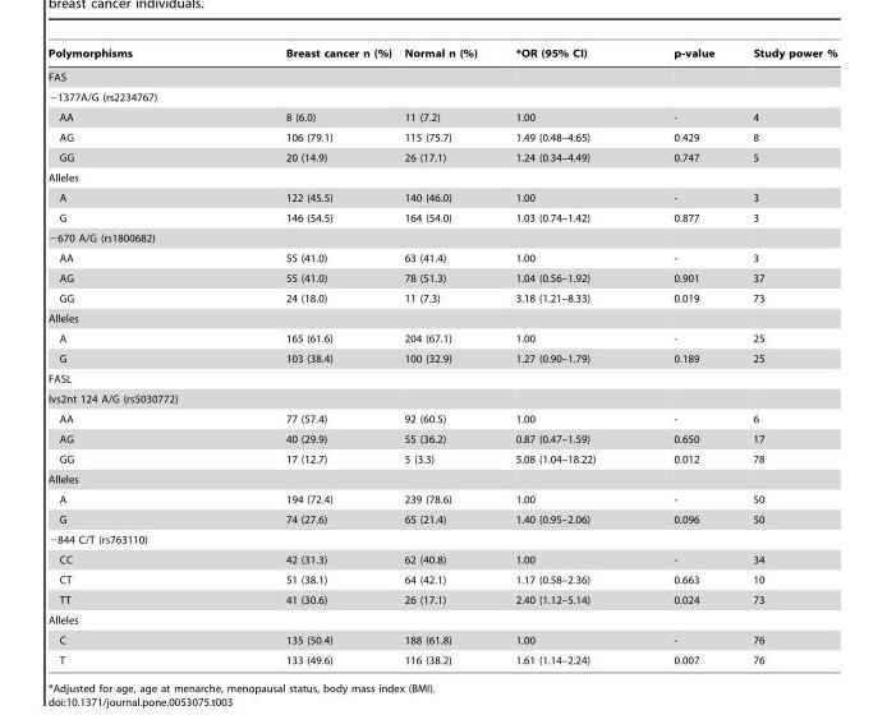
<table><thead><tr><td>Polymorphisms</td><td>Breast cancer n (%)</td><td>Normal n (%)</td><td>*OR (95% CI)</td><td>p-value</td><td>Study power %</td></tr></thead><tbody><tr><td colspan="6">FAS</td></tr><tr><td colspan="6">−1377A/G (rs2234767)</td></tr><tr><td>AA</td><td>8 (6.0)</td><td>11 (7.2)</td><td>1.00</td><td>-</td><td>4</td></tr><tr><td>AG</td><td>106 (79.1)</td><td>115 (75.7)</td><td>1.49 (0.48–4.65)</td><td>0.429</td><td>8</td></tr><tr><td>GG</td><td>20 (14.9)</td><td>26 (17.1)</td><td>1.24 (0.34–4.49)</td><td>0.747</td><td>5</td></tr><tr><td colspan="6">Alleles</td></tr><tr><td>A</td><td>122 (45.5)</td><td>140 (46.0)</td><td>1.00</td><td>-</td><td>3</td></tr><tr><td>G</td><td>146 (54.5)</td><td>164 (54.0)</td><td>1.03 (0.74–1.42)</td><td>0.877</td><td>3</td></tr><tr><td colspan="6">−670 A/G (rs1800682)</td></tr><tr><td>AA</td><td>55 (41.0)</td><td>63 (41.4)</td><td>1.00</td><td>-</td><td>3</td></tr><tr><td>AG</td><td>55 (41.0)</td><td>78 (51.3)</td><td>1.04 (0.56–1.92)</td><td>0.901</td><td>37</td></tr><tr><td>GG</td><td>24 (18.0)</td><td>11 (7.3)</td><td>3.18 (1.21–8.33)</td><td>0.019</td><td>73</td></tr><tr><td colspan="6">Alleles</td></tr><tr><td>A</td><td>165 (61.6)</td><td>204 (67.1)</td><td>1.00</td><td>-</td><td>25</td></tr><tr><td>G</td><td>103 (38.4)</td><td>100 (32.9)</td><td>1.27 (0.90–1.79)</td><td>0.189</td><td>25</td></tr><tr><td colspan="6">FASL</td></tr><tr><td colspan="6">Ivs2nt 124 A/G (rs5030772)</td></tr><tr><td>AA</td><td>77 (57.4)</td><td>92 (60.5)</td><td>1.00</td><td>-</td><td>6</td></tr><tr><td>AG</td><td>40 (29.9)</td><td>55 (36.2)</td><td>0.87 (0.47–1.59)</td><td>0.650</td><td>17</td></tr><tr><td>GG</td><td>17 (12.7)</td><td>5 (3.3)</td><td>5.08 (1.04–18.22)</td><td>0.012</td><td>78</td></tr><tr><td colspan="6">Alleles</td></tr><tr><td>A</td><td>194 (72.4)</td><td>239 (78.6)</td><td>1.00</td><td>-</td><td>50</td></tr><tr><td>G</td><td>74 (27.6)</td><td>65 (21.4)</td><td>1.40 (0.95–2.06)</td><td>0.096</td><td>50</td></tr><tr><td colspan="6">−844 C/T (rs763110)</td></tr><tr><td>CC</td><td>42 (31.3)</td><td>62 (40.8)</td><td>1.00</td><td>-</td><td>34</td></tr><tr><td>CT</td><td>51 (38.1)</td><td>64 (42.1)</td><td>1.17 (0.58–2.36)</td><td>0.663</td><td>10</td></tr><tr><td>TT</td><td>41 (30.6)</td><td>26 (17.1)</td><td>2.40 (1.12–5.14)</td><td>0.024</td><td>73</td></tr><tr><td colspan="6">Alleles</td></tr><tr><td>C</td><td>135 (50.4)</td><td>188 (61.8)</td><td>1.00</td><td>-</td><td>76</td></tr><tr><td>T</td><td>133 (49.6)</td><td>116 (38.2)</td><td>1.61 (1.14–2.24)</td><td>0.007</td><td>76</td></tr></tbody></table>